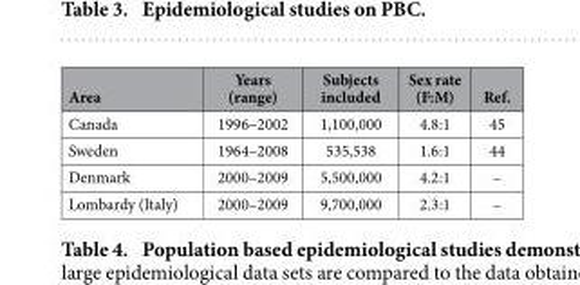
<table><thead><tr><td>Area</td><td>Years (range)</td><td>Subjects included</td><td>Sex rate (F:M)</td><td>Ref.</td></tr></thead><tbody><tr><td>Canada</td><td>1996–2002</td><td>1,100,000</td><td>4.8:1</td><td>45</td></tr><tr><td>Sweden</td><td>1964–2008</td><td>535,538</td><td>1.6:1</td><td>44</td></tr><tr><td>Denmark</td><td>2000–2009</td><td>5,500,000</td><td>4.2:1</td><td>–</td></tr><tr><td>Lombardy (Italy)</td><td>2000–2009</td><td>9,700,000</td><td>2.3:1</td><td>–</td></tr></tbody></table>